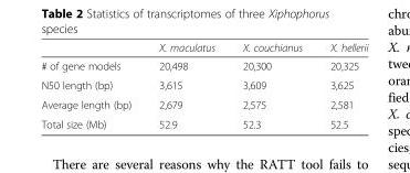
<table><thead><tr><td></td><td>X. maculatus</td><td>X. couchianus</td><td>X. hellerii</td></tr></thead><tbody><tr><td># of gene models</td><td>20,498</td><td>20,300</td><td>20,325</td></tr><tr><td>N50 length (bp)</td><td>3,615</td><td>3,609</td><td>3,625</td></tr><tr><td>Average length (bp)</td><td>2,679</td><td>2,575</td><td>2,581</td></tr><tr><td>Total size (Mb)</td><td>52.9</td><td>52.3</td><td>52.5</td></tr></tbody></table>